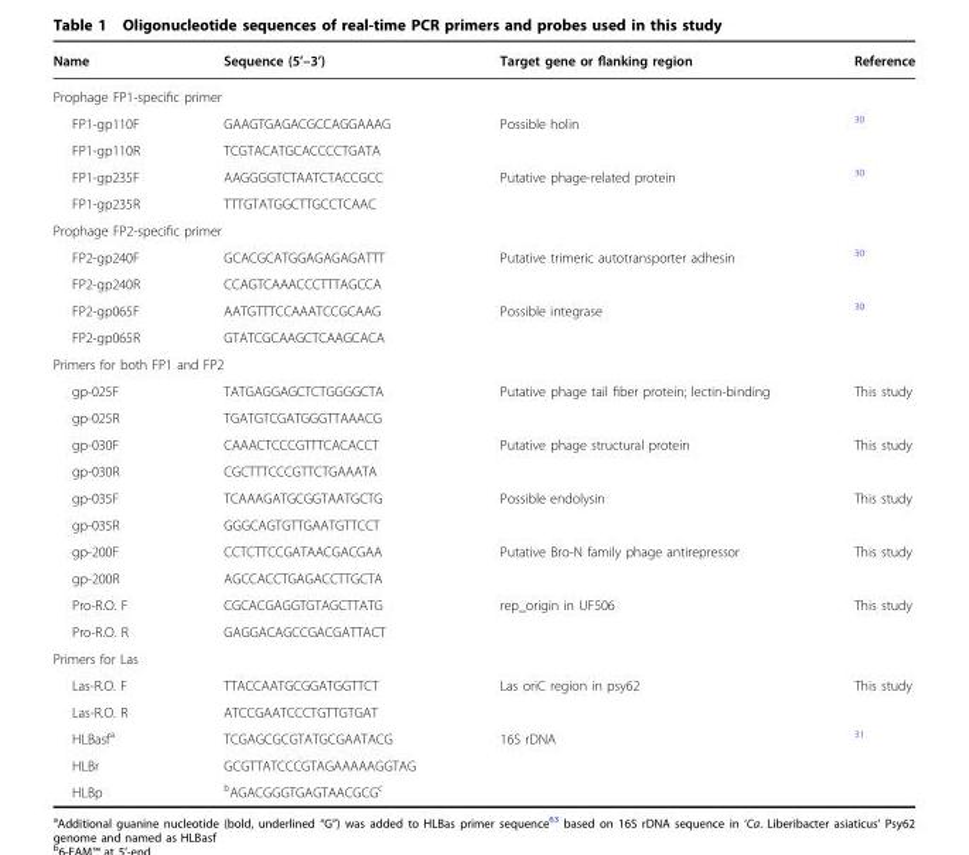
<table><thead><tr><td>Name</td><td>Sequence (5’–3’)</td><td>Target gene or flanking region</td><td>Reference</td></tr></thead><tbody><tr><td colspan="4">Prophage FP1-specific primer</td></tr><tr><td>FP1-gp110F</td><td>GAAGTGAGACGCCAGGAAAG</td><td>Possible holin</td><td><sup>30</sup></td></tr><tr><td>FP1-gp110R</td><td>TCGTACATGCACCCCTGATA</td><td></td><td></td></tr><tr><td>FP1-gp235F</td><td>AAGGGGTCTAATCTACCGCC</td><td>Putative phage-related protein</td><td><sup>30</sup></td></tr><tr><td>FP1-gp235R</td><td>TTTGTATGGCTTGCCTCAAC</td><td></td><td></td></tr><tr><td colspan="4">Prophage FP2-specific primer</td></tr><tr><td>FP2-gp240F</td><td>GCACGCATGGAGAGAGATTT</td><td>Putative trimeric autotransporter adhesin</td><td><sup>30</sup></td></tr><tr><td>FP2-gp240R</td><td>CCAGTCAAACCCTTTAGCCA</td><td></td><td></td></tr><tr><td>FP2-gp065F</td><td>AATGTTTCCAAATCCGCAAG</td><td>Possible integrase</td><td><sup>30</sup></td></tr><tr><td>FP2-gp065R</td><td>GTATCGCAAGCTCAAGCACA</td><td></td><td></td></tr><tr><td colspan="4">Primers for both FP1 and FP2</td></tr><tr><td>gp-025F</td><td>TATGAGGAGCTCTGGGGCTA</td><td>Putative phage tail fiber protein; lectin-binding</td><td>This study</td></tr><tr><td>gp-025R</td><td>TGATGTCGATGGGTTAAACG</td><td></td><td></td></tr><tr><td>gp-030F</td><td>CAAACTCCCGTTTCACACCT</td><td>Putative phage structural protein</td><td>This study</td></tr><tr><td>gp-030R</td><td>CGCTTTCCCGTTCTGAAATA</td><td></td><td></td></tr><tr><td>gp-035F</td><td>TCAAAGATGCGGTAATGCTG</td><td>Possible endolysin</td><td>This study</td></tr><tr><td>gp-035R</td><td>GGGCAGTGTTGAATGTTCCT</td><td></td><td></td></tr><tr><td>gp-200F</td><td>CCTCTTCCGATAACGACGAA</td><td>Putative Bro-N family phage antirepressor</td><td>This study</td></tr><tr><td>gp-200R</td><td>AGCCACCTGAGACCTTGCTA</td><td></td><td></td></tr><tr><td>Pro-R.O. F</td><td>CGCACGAGGTGTAGCTTATG</td><td>rep_origin in UF506</td><td>This study</td></tr><tr><td>Pro-R.O. R</td><td>GAGGACAGCCGACGATTACT</td><td></td><td></td></tr><tr><td colspan="4">Primers for Las</td></tr><tr><td>Las-R.O. F</td><td>TTACCAATGCGGATGGTTCT</td><td>Las oriC region in psy62</td><td>This study</td></tr><tr><td>Las-R.O. R</td><td>ATCCGAATCCCTGTTGTGAT</td><td></td><td></td></tr><tr><td>HLBasf<sup>a</sup></td><td>TCGAGCGCGTATGCGAATACG</td><td>16S rDNA</td><td><sup>31</sup></td></tr><tr><td>HLBr</td><td>GCGTTATCCCGTAGAAAAAGGTAG</td><td></td><td></td></tr><tr><td>HLBp</td><td><sup>b</sup>AGACGGGTGAGTAACGCG<sup>c</sup></td><td></td><td></td></tr></tbody></table>